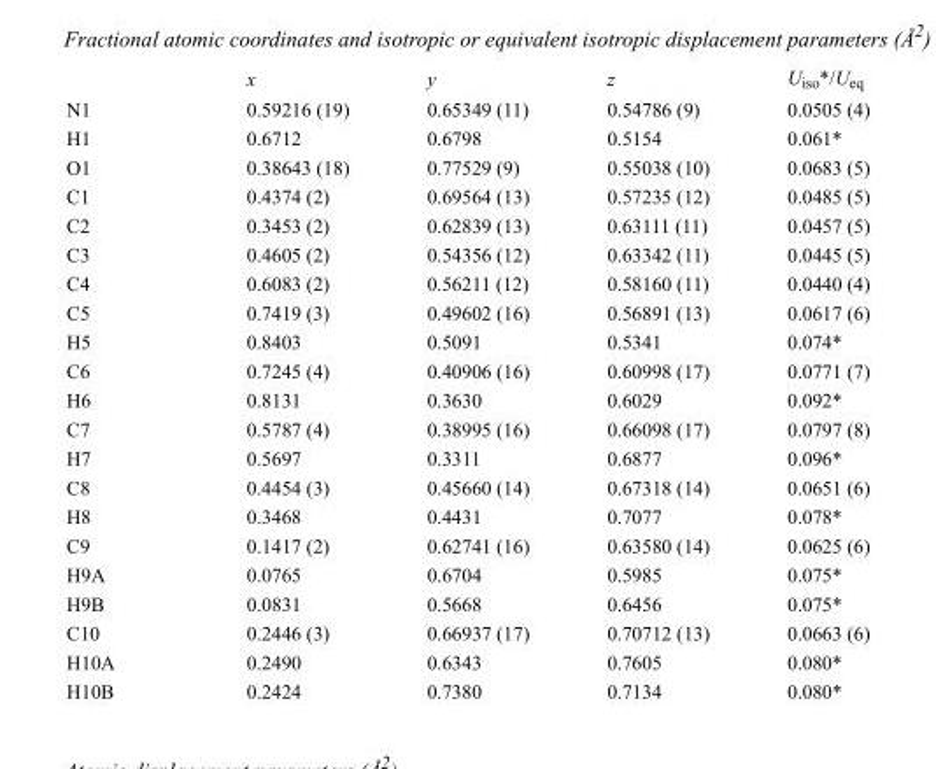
<table><thead><tr><td></td><td>x</td><td>y</td><td>z</td><td>U<sub>iso</sub>*/U<sub>eq</sub></td></tr></thead><tbody><tr><td>N1</td><td>0.59216 (19)</td><td>0.65349 (11)</td><td>0.54786 (9)</td><td>0.0505 (4)</td></tr><tr><td>H1</td><td>0.6712</td><td>0.6798</td><td>0.5154</td><td>0.061*</td></tr><tr><td>O1</td><td>0.38643 (18)</td><td>0.77529 (9)</td><td>0.55038 (10)</td><td>0.0683 (5)</td></tr><tr><td>C1</td><td>0.4374 (2)</td><td>0.69564 (13)</td><td>0.57235 (12)</td><td>0.0485 (5)</td></tr><tr><td>C2</td><td>0.3453 (2)</td><td>0.62839 (13)</td><td>0.63111 (11)</td><td>0.0457 (5)</td></tr><tr><td>C3</td><td>0.4605 (2)</td><td>0.54356 (12)</td><td>0.63342 (11)</td><td>0.0445 (5)</td></tr><tr><td>C4</td><td>0.6083 (2)</td><td>0.56211 (12)</td><td>0.58160 (11)</td><td>0.0440 (4)</td></tr><tr><td>C5</td><td>0.7419 (3)</td><td>0.49602 (16)</td><td>0.56891 (13)</td><td>0.0617 (6)</td></tr><tr><td>H5</td><td>0.8403</td><td>0.5091</td><td>0.5341</td><td>0.074*</td></tr><tr><td>C6</td><td>0.7245 (4)</td><td>0.40906 (16)</td><td>0.60998 (17)</td><td>0.0771 (7)</td></tr><tr><td>H6</td><td>0.8131</td><td>0.3630</td><td>0.6029</td><td>0.092*</td></tr><tr><td>C7</td><td>0.5787 (4)</td><td>0.38995 (16)</td><td>0.66098 (17)</td><td>0.0797 (8)</td></tr><tr><td>H7</td><td>0.5697</td><td>0.3311</td><td>0.6877</td><td>0.096*</td></tr><tr><td>C8</td><td>0.4454 (3)</td><td>0.45660 (14)</td><td>0.67318 (14)</td><td>0.0651 (6)</td></tr><tr><td>H8</td><td>0.3468</td><td>0.4431</td><td>0.7077</td><td>0.078*</td></tr><tr><td>C9</td><td>0.1417 (2)</td><td>0.62741 (16)</td><td>0.63580 (14)</td><td>0.0625 (6)</td></tr><tr><td>H9A</td><td>0.0765</td><td>0.6704</td><td>0.5985</td><td>0.075*</td></tr><tr><td>H9B</td><td>0.0831</td><td>0.5668</td><td>0.6456</td><td>0.075*</td></tr><tr><td>C10</td><td>0.2446 (3)</td><td>0.66937 (17)</td><td>0.70712 (13)</td><td>0.0663 (6)</td></tr><tr><td>H10A</td><td>0.2490</td><td>0.6343</td><td>0.7605</td><td>0.080*</td></tr><tr><td>H10B</td><td>0.2424</td><td>0.7380</td><td>0.7134</td><td>0.080*</td></tr></tbody></table>